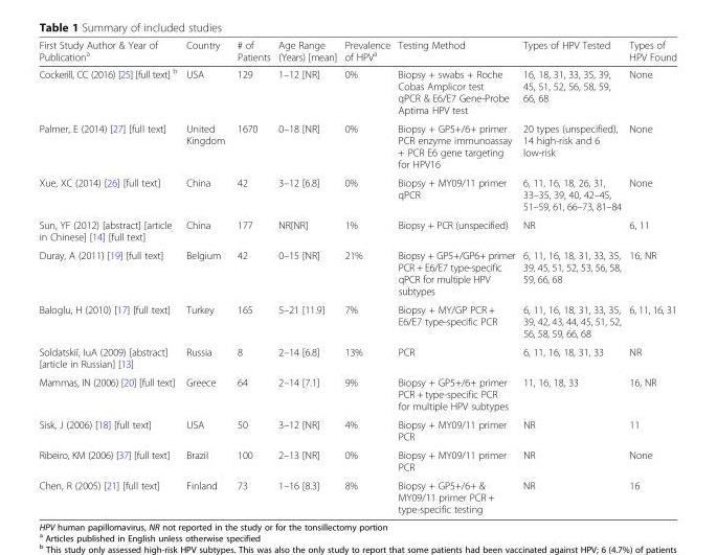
<table><thead><tr><td>First Study Author &amp; Year of Publication<sup>a</sup></td><td>Country</td><td># of Patients</td><td>Age Range (Years) [mean]</td><td>Prevalence of HPV<sup>a</sup></td><td>Testing Method</td><td>Types of HPV Tested</td><td>Types of HPV Found</td></tr></thead><tbody><tr><td>Cockerill, CC (2016) [25] [full text] <sup>b</sup></td><td>USA</td><td>129</td><td>1–12 [NR]</td><td>0%</td><td>Biopsy + swabs + Roche Cobas Amplicor test qPCR &amp; E6/E7 Gene-Probe Aptima HPV test</td><td>16, 18, 31, 33, 35, 39, 45, 51, 52, 56, 58, 59, 66, 68</td><td>None</td></tr><tr><td>Palmer, E (2014) [27] [full text]</td><td>United Kingdom</td><td>1670</td><td>0–18 [NR]</td><td>0%</td><td>Biopsy + GP5+/6+ primer PCR enzyme immunoassay + PCR E6 gene targeting for HPV16</td><td>20 types (unspecified), 14 high-risk and 6 low-risk</td><td>None</td></tr><tr><td>Xue, XC (2014) [26] [full text]</td><td>China</td><td>42</td><td>3–12 [6.8]</td><td>0%</td><td>Biopsy + MY09/11 primer qPCR</td><td>6, 11, 16, 18, 26, 31, 33–35, 39, 40, 42–45, 51–59, 61, 66–73, 81–84</td><td>None</td></tr><tr><td>Sun, YF (2012) [abstract] [article in Chinese] [14] [full text]</td><td>China</td><td>177</td><td>NR[NR]</td><td>1%</td><td>Biopsy + PCR (unspecified)</td><td>NR</td><td>6, 11</td></tr><tr><td>Duray, A (2011) [19] [full text]</td><td>Belgium</td><td>42</td><td>0–15 [NR]</td><td>21%</td><td>Biopsy + GP5+/GP6+ primer PCR + E6/E7 type-specific qPCR for multiple HPV subtypes</td><td>6, 11, 16, 18, 31, 33, 35, 39, 45, 51, 52, 53, 56, 58, 59, 66, 68</td><td>16, NR</td></tr><tr><td>Baloglu, H (2010) [17] [full text]</td><td>Turkey</td><td>165</td><td>5–21 [11.9]</td><td>7%</td><td>Biopsy + MY/GP PCR + E6/E7 type-specific PCR</td><td>6, 11, 16, 18, 31, 33, 35, 39, 42, 43, 44, 45, 51, 52, 56, 58, 59, 66, 68</td><td>6, 11, 16, 31</td></tr><tr><td>Soldatskiĭ, IuA (2009) [abstract] [article in Russian] [13]</td><td>Russia</td><td>8</td><td>2–14 [6.8]</td><td>13%</td><td>PCR</td><td>6, 11, 16, 18, 31, 33</td><td>NR</td></tr><tr><td>Mammas, IN (2006) [20] [full text]</td><td>Greece</td><td>64</td><td>2–14 [7.1]</td><td>9%</td><td>Biopsy + GP5+/6+ primer PCR + type-specific PCR for multiple HPV subtypes</td><td>11, 16, 18, 33</td><td>16, NR</td></tr><tr><td>Sisk, J (2006) [18] [full text]</td><td>USA</td><td>50</td><td>3–12 [NR]</td><td>4%</td><td>Biopsy + MY09/11 primer PCR</td><td>NR</td><td>11</td></tr><tr><td>Ribeiro, KM (2006) [37] [full text]</td><td>Brazil</td><td>100</td><td>2–13 [NR]</td><td>0%</td><td>Biopsy + MY09/11 primer PCR</td><td>NR</td><td>None</td></tr><tr><td>Chen, R (2005) [21] [full text]</td><td>Finland</td><td>73</td><td>1–16 [8.3]</td><td>8%</td><td>Biopsy + GP5+/6+ &amp; MY09/11 primer PCR + type-specific testing</td><td>NR</td><td>16</td></tr></tbody></table>